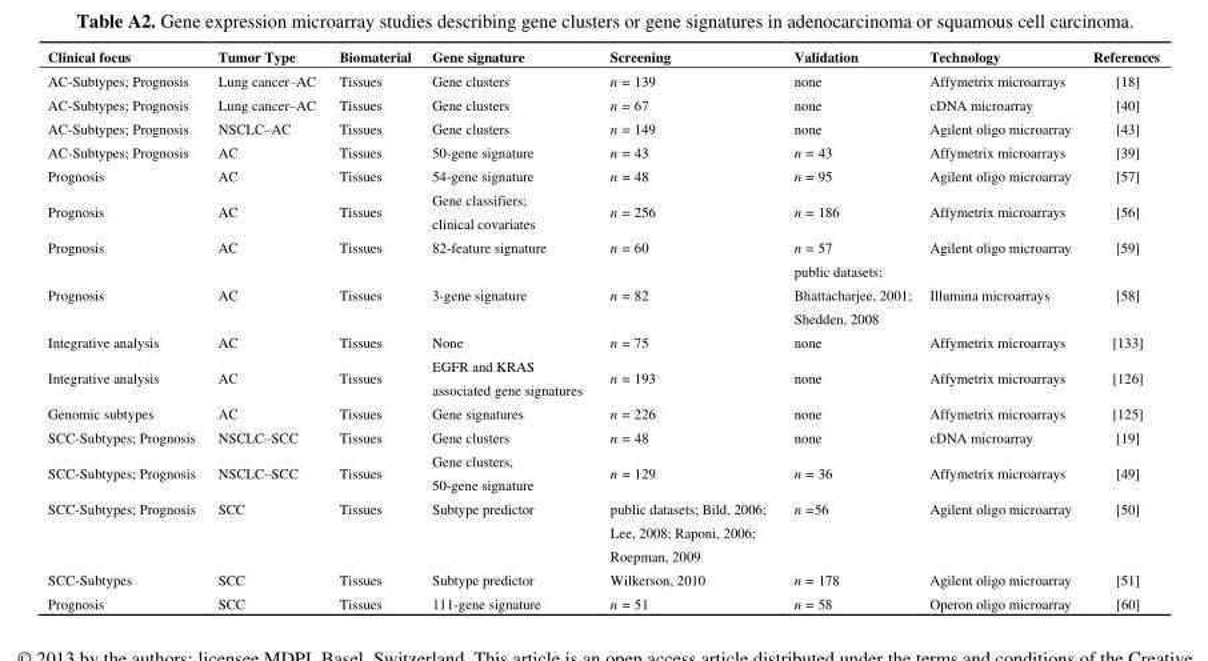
<table><thead><tr><td>Clinical focus</td><td>Tumor Type</td><td>Biomaterial</td><td>Gene signature</td><td>Screening</td><td>Validation</td><td>Technology</td><td>References</td></tr></thead><tbody><tr><td>AC-Subtypes; Prognosis</td><td>Lung cancer–AC</td><td>Tissues</td><td>Gene clusters</td><td>n = 139</td><td>none</td><td>Affymetrix microarrays</td><td>[18]</td></tr><tr><td>AC-Subtypes; Prognosis</td><td>Lung cancer–AC</td><td>Tissues</td><td>Gene clusters</td><td>n = 67</td><td>none</td><td>cDNA microarray</td><td>[40]</td></tr><tr><td>AC-Subtypes; Prognosis</td><td>NSCLC–AC</td><td>Tissues</td><td>Gene clusters</td><td>n = 149</td><td>none</td><td>Agilent oligo microarray</td><td>[43]</td></tr><tr><td>AC-Subtypes; Prognosis</td><td>AC</td><td>Tissues</td><td>50-gene signature</td><td>n = 43</td><td>n = 43</td><td>Affymetrix microarrays</td><td>[39]</td></tr><tr><td>Prognosis</td><td>AC</td><td>Tissues</td><td>54-gene signature</td><td>n = 48</td><td>n = 95</td><td>Agilent oligo microarray</td><td>[57]</td></tr><tr><td>Prognosis</td><td>AC</td><td>Tissues</td><td>Gene classifiers; clinical covariates</td><td>n = 256</td><td>n = 186</td><td>Affymetrix microarrays</td><td>[56]</td></tr><tr><td>Prognosis</td><td>AC</td><td>Tissues</td><td>82-feature signature</td><td>n = 60</td><td>n = 57</td><td>Agilent oligo microarray</td><td>[59]</td></tr><tr><td>Prognosis</td><td>AC</td><td>Tissues</td><td>3-gene signature</td><td>n = 82</td><td>public datasets; Bhattacharjee, 2001; Shedden, 2008</td><td>Illumina microarrays</td><td>[58]</td></tr><tr><td>Integrative analysis</td><td>AC</td><td>Tissues</td><td>None</td><td>n = 75</td><td>none</td><td>Affymetrix microarrays</td><td>[133]</td></tr><tr><td>Integrative analysis</td><td>AC</td><td>Tissues</td><td>EGFR and KRAS associated gene signatures</td><td>n = 193</td><td>none</td><td>Affymetrix microarrays</td><td>[126]</td></tr><tr><td>Genomic subtypes</td><td>AC</td><td>Tissues</td><td>Gene signatures</td><td>n = 226</td><td>none</td><td>Affymetrix microarrays</td><td>[125]</td></tr><tr><td>SCC-Subtypes; Prognosis</td><td>NSCLC–SCC</td><td>Tissues</td><td>Gene clusters</td><td>n = 48</td><td>none</td><td>cDNA microarray</td><td>[19]</td></tr><tr><td>SCC-Subtypes; Prognosis</td><td>NSCLC–SCC</td><td>Tissues</td><td>Gene clusters, 50-gene signature</td><td>n = 129</td><td>n = 36</td><td>Affymetrix microarrays</td><td>[49]</td></tr><tr><td>SCC-Subtypes; Prognosis</td><td>SCC</td><td>Tissues</td><td>Subtype predictor</td><td>public datasets; Bild, 2006; Lee, 2008; Raponi, 2006; Roepman, 2009</td><td>n =56</td><td>Agilent oligo microarray</td><td>[50]</td></tr><tr><td>SCC-Subtypes</td><td>SCC</td><td>Tissues</td><td>Subtype predictor</td><td>Wilkerson, 2010</td><td>n = 178</td><td>Agilent oligo microarray</td><td>[51]</td></tr><tr><td>Prognosis</td><td>SCC</td><td>Tissues</td><td>111-gene signature</td><td>n = 51</td><td>n = 58</td><td>Operon oligo microarray</td><td>[60]</td></tr></tbody></table>